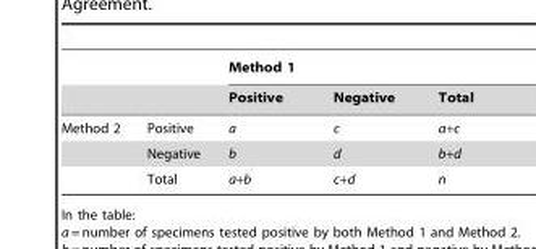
<table><thead><tr><td rowspan="2"></td><td rowspan="2"></td><td colspan="3">Method 1</td></tr><tr><td>Positive</td><td>Negative</td><td>Total</td></tr></thead><tbody><tr><td rowspan="3">Method 2</td><td>Positive</td><td>a</td><td>c</td><td>a+c</td></tr><tr><td>Negative</td><td>b</td><td>d</td><td>b+d</td></tr><tr><td>Total</td><td>a+b</td><td>c+d</td><td>n</td></tr></tbody></table>